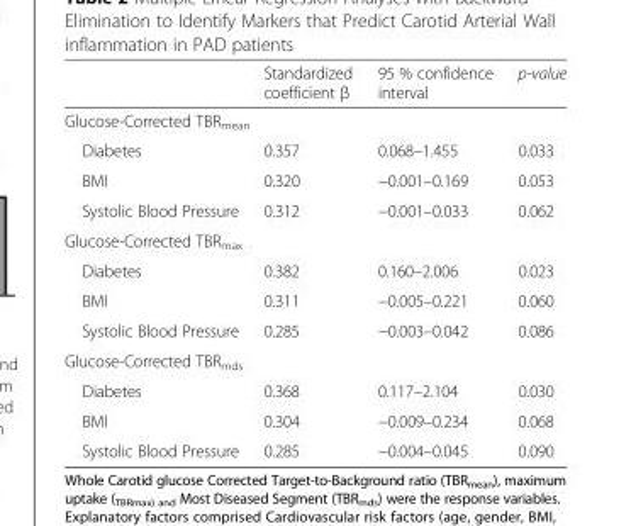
<table><thead><tr><td></td><td>Standardized coefficient β</td><td>95 % confidence interval</td><td>p-value</td></tr></thead><tbody><tr><td colspan="4">Glucose-Corrected TBR<sub>mean</sub></td></tr><tr><td>Diabetes</td><td>0.357</td><td>0.068–1.455</td><td>0.033</td></tr><tr><td>BMI</td><td>0.320</td><td>−0.001–0.169</td><td>0.053</td></tr><tr><td>Systolic Blood Pressure</td><td>0.312</td><td>−0.001–0.033</td><td>0.062</td></tr><tr><td colspan="4">Glucose-Corrected TBR<sub>max</sub></td></tr><tr><td>Diabetes</td><td>0.382</td><td>0.160–2.006</td><td>0.023</td></tr><tr><td>BMI</td><td>0.311</td><td>−0.005–0.221</td><td>0.060</td></tr><tr><td>Systolic Blood Pressure</td><td>0.285</td><td>−0.003–0.042</td><td>0.086</td></tr><tr><td colspan="4">Glucose-Corrected TBR<sub>mds</sub></td></tr><tr><td>Diabetes</td><td>0.368</td><td>0.117–2.104</td><td>0.030</td></tr><tr><td>BMI</td><td>0.304</td><td>−0.009–0.234</td><td>0.068</td></tr><tr><td>Systolic Blood Pressure</td><td>0.285</td><td>−0.004–0.045</td><td>0.090</td></tr></tbody></table>